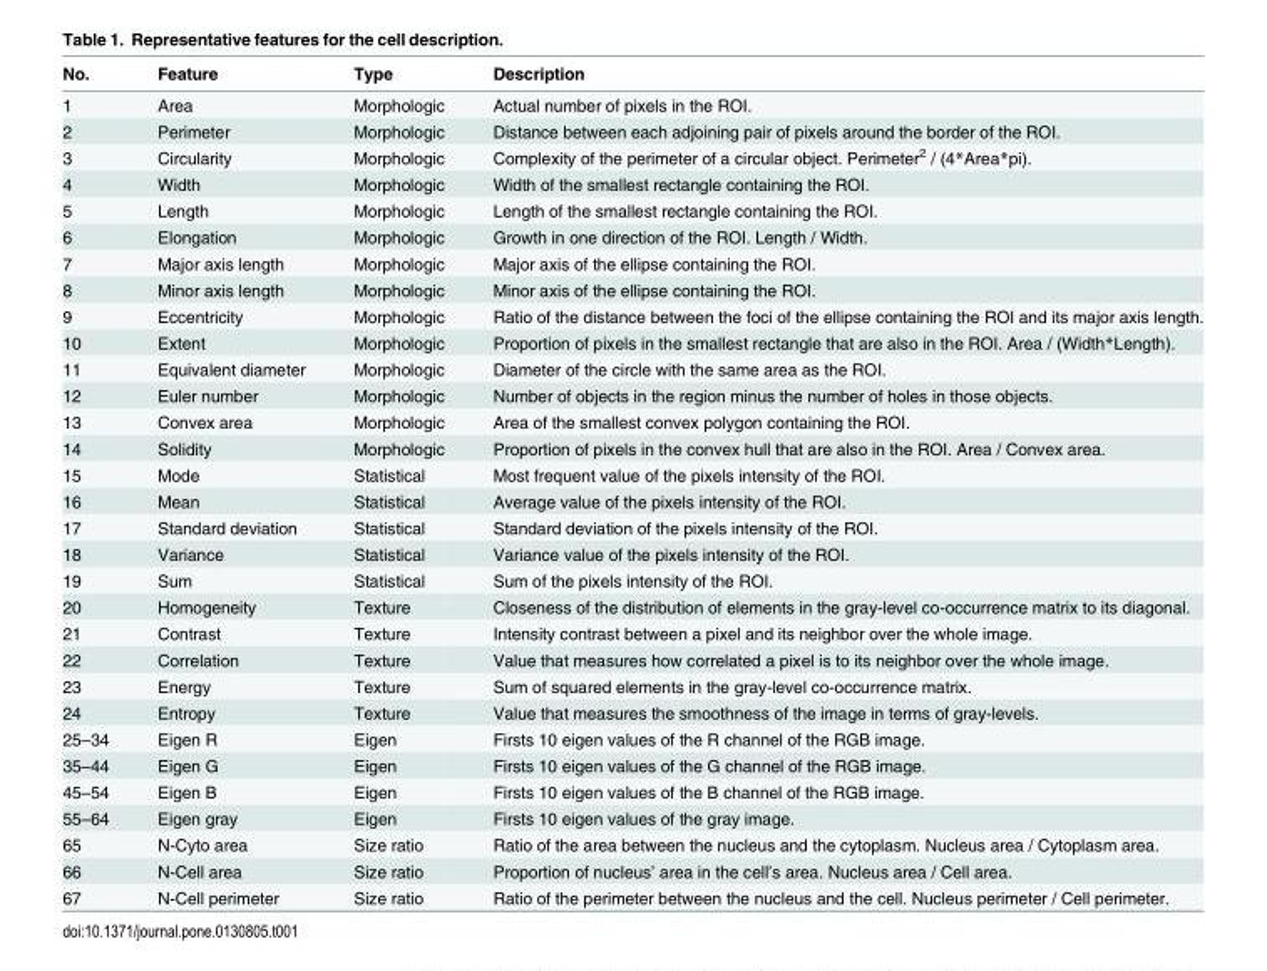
<table><thead><tr><td>No.</td><td>Feature</td><td>Type</td><td>Description</td></tr></thead><tbody><tr><td>1</td><td>Area</td><td>Morphologic</td><td>Actual number of pixels in the ROI.</td></tr><tr><td>2</td><td>Perimeter</td><td>Morphologic</td><td>Distance between each adjoining pair of pixels around the border of the ROI.</td></tr><tr><td>3</td><td>Circularity</td><td>Morphologic</td><td>Complexity of the perimeter of a circular object. Perimeter<sup>2</sup> / (4*Area*pi).</td></tr><tr><td>4</td><td>Width</td><td>Morphologic</td><td>Width of the smallest rectangle containing the ROI.</td></tr><tr><td>5</td><td>Length</td><td>Morphologic</td><td>Length of the smallest rectangle containing the ROI.</td></tr><tr><td>6</td><td>Elongation</td><td>Morphologic</td><td>Growth in one direction of the ROI. Length / Width.</td></tr><tr><td>7</td><td>Major axis length</td><td>Morphologic</td><td>Major axis of the ellipse containing the ROI.</td></tr><tr><td>8</td><td>Minor axis length</td><td>Morphologic</td><td>Minor axis of the ellipse containing the ROI.</td></tr><tr><td>9</td><td>Eccentricity</td><td>Morphologic</td><td>Ratio of the distance between the foci of the ellipse containing the ROI and its major axis length.</td></tr><tr><td>10</td><td>Extent</td><td>Morphologic</td><td>Proportion of pixels in the smallest rectangle that are also in the ROI. Area / (Width*Length).</td></tr><tr><td>11</td><td>Equivalent diameter</td><td>Morphologic</td><td>Diameter of the circle with the same area as the ROI.</td></tr><tr><td>12</td><td>Euler number</td><td>Morphologic</td><td>Number of objects in the region minus the number of holes in those objects.</td></tr><tr><td>13</td><td>Convex area</td><td>Morphologic</td><td>Area of the smallest convex polygon containing the ROI.</td></tr><tr><td>14</td><td>Solidity</td><td>Morphologic</td><td>Proportion of pixels in the convex hull that are also in the ROI. Area / Convex area.</td></tr><tr><td>15</td><td>Mode</td><td>Statistical</td><td>Most frequent value of the pixels intensity of the ROI.</td></tr><tr><td>16</td><td>Mean</td><td>Statistical</td><td>Average value of the pixels intensity of the ROI.</td></tr><tr><td>17</td><td>Standard deviation</td><td>Statistical</td><td>Standard deviation of the pixels intensity of the ROI.</td></tr><tr><td>18</td><td>Variance</td><td>Statistical</td><td>Variance value of the pixels intensity of the ROI.</td></tr><tr><td>19</td><td>Sum</td><td>Statistical</td><td>Sum of the pixels intensity of the ROI.</td></tr><tr><td>20</td><td>Homogeneity</td><td>Texture</td><td>Closeness of the distribution of elements in the gray-level co-occurrence matrix to its diagonal.</td></tr><tr><td>21</td><td>Contrast</td><td>Texture</td><td>Intensity contrast between a pixel and its neighbor over the whole image.</td></tr><tr><td>22</td><td>Correlation</td><td>Texture</td><td>Value that measures how correlated a pixel is to its neighbor over the whole image.</td></tr><tr><td>23</td><td>Energy</td><td>Texture</td><td>Sum of squared elements in the gray-level co-occurrence matrix.</td></tr><tr><td>24</td><td>Entropy</td><td>Texture</td><td>Value that measures the smoothness of the image in terms of gray-levels.</td></tr><tr><td>25–34</td><td>Eigen R</td><td>Eigen</td><td>Firsts 10 eigen values of the R channel of the RGB image.</td></tr><tr><td>35–44</td><td>Eigen G</td><td>Eigen</td><td>Firsts 10 eigen values of the G channel of the RGB image.</td></tr><tr><td>45–54</td><td>Eigen B</td><td>Eigen</td><td>Firsts 10 eigen values of the B channel of the RGB image.</td></tr><tr><td>55–64</td><td>Eigen gray</td><td>Eigen</td><td>Firsts 10 eigen values of the gray image.</td></tr><tr><td>65</td><td>N-Cyto area</td><td>Size ratio</td><td>Ratio of the area between the nucleus and the cytoplasm. Nucleus area / Cytoplasm area.</td></tr><tr><td>66</td><td>N-Cell area</td><td>Size ratio</td><td>Proportion of nucleus’ area in the cell’s area. Nucleus area / Cell area.</td></tr><tr><td>67</td><td>N-Cell perimeter</td><td>Size ratio</td><td>Ratio of the perimeter between the nucleus and the cell. Nucleus perimeter / Cell perimeter.</td></tr></tbody></table>